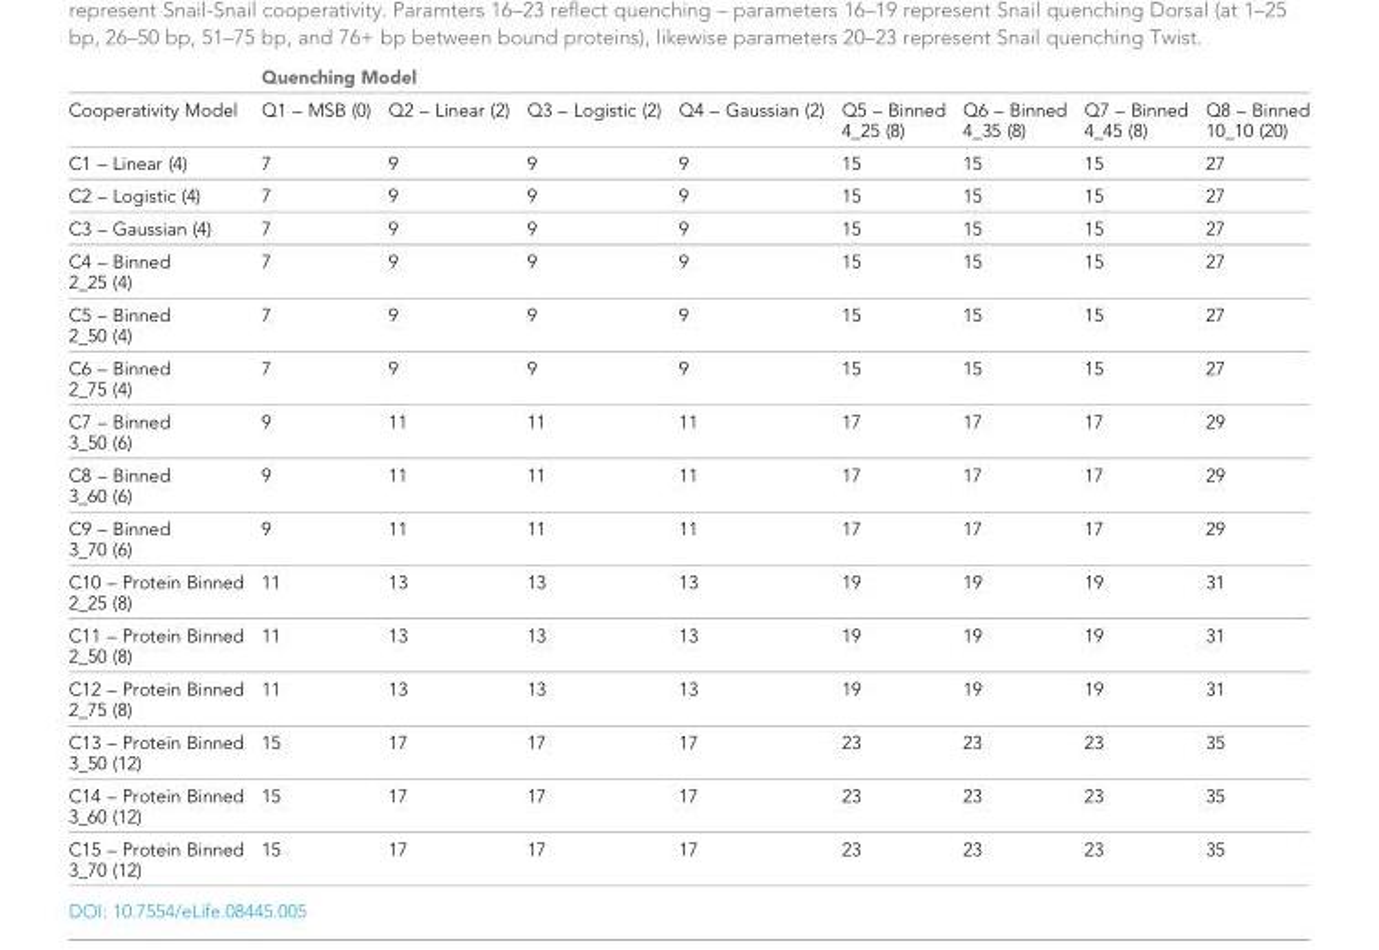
<table><thead><tr><td rowspan="2">Cooperativity Model</td><td colspan="8">Quenching Model</td></tr><tr><td>Q1 – MSB (0)</td><td>Q2 – Linear (2)</td><td>Q3 – Logistic (2)</td><td>Q4 – Gaussian (2)</td><td>Q5 – Binned 4_25 (8)</td><td>Q6 – Binned 4_35 (8)</td><td>Q7 – Binned 4_45 (8)</td><td>Q8 – Binned 10_10 (20)</td></tr></thead><tbody><tr><td>C1 – Linear (4)</td><td>7</td><td>9</td><td>9</td><td>9</td><td>15</td><td>15</td><td>15</td><td>27</td></tr><tr><td>C2 – Logistic (4)</td><td>7</td><td>9</td><td>9</td><td>9</td><td>15</td><td>15</td><td>15</td><td>27</td></tr><tr><td>C3 – Gaussian (4)</td><td>7</td><td>9</td><td>9</td><td>9</td><td>15</td><td>15</td><td>15</td><td>27</td></tr><tr><td>C4 – Binned 2_25 (4)</td><td>7</td><td>9</td><td>9</td><td>9</td><td>15</td><td>15</td><td>15</td><td>27</td></tr><tr><td>C5 – Binned 2_50 (4)</td><td>7</td><td>9</td><td>9</td><td>9</td><td>15</td><td>15</td><td>15</td><td>27</td></tr><tr><td>C6 – Binned 2_75 (4)</td><td>7</td><td>9</td><td>9</td><td>9</td><td>15</td><td>15</td><td>15</td><td>27</td></tr><tr><td>C7 – Binned 3_50 (6)</td><td>9</td><td>11</td><td>11</td><td>11</td><td>17</td><td>17</td><td>17</td><td>29</td></tr><tr><td>C8 – Binned 3_60 (6)</td><td>9</td><td>11</td><td>11</td><td>11</td><td>17</td><td>17</td><td>17</td><td>29</td></tr><tr><td>C9 – Binned 3_70 (6)</td><td>9</td><td>11</td><td>11</td><td>11</td><td>17</td><td>17</td><td>17</td><td>29</td></tr><tr><td>C10 – Protein Binned 2_25 (8)</td><td>11</td><td>13</td><td>13</td><td>13</td><td>19</td><td>19</td><td>19</td><td>31</td></tr><tr><td>C11 – Protein Binned 2_50 (8)</td><td>11</td><td>13</td><td>13</td><td>13</td><td>19</td><td>19</td><td>19</td><td>31</td></tr><tr><td>C12 – Protein Binned 2_75 (8)</td><td>11</td><td>13</td><td>13</td><td>13</td><td>19</td><td>19</td><td>19</td><td>31</td></tr><tr><td>C13 – Protein Binned 3_50 (12)</td><td>15</td><td>17</td><td>17</td><td>17</td><td>23</td><td>23</td><td>23</td><td>35</td></tr><tr><td>C14 – Protein Binned 3_60 (12)</td><td>15</td><td>17</td><td>17</td><td>17</td><td>23</td><td>23</td><td>23</td><td>35</td></tr><tr><td>C15 – Protein Binned 3_70 (12)</td><td>15</td><td>17</td><td>17</td><td>17</td><td>23</td><td>23</td><td>23</td><td>35</td></tr></tbody></table>